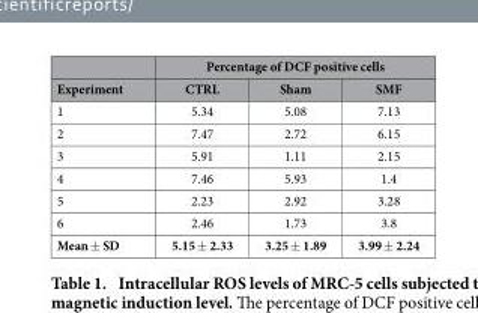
<table><thead><tr><td rowspan="2">Experiment</td><td colspan="3">Percentage of DCF positive cells</td></tr><tr><td>CTRL</td><td>Sham</td><td>SMF</td></tr></thead><tbody><tr><td>1</td><td>5.34</td><td>5.08</td><td>7.13</td></tr><tr><td>2</td><td>7.47</td><td>2.72</td><td>6.15</td></tr><tr><td>3</td><td>5.91</td><td>1.11</td><td>2.15</td></tr><tr><td>4</td><td>7.46</td><td>5.93</td><td>1.4</td></tr><tr><td>5</td><td>2.23</td><td>2.92</td><td>3.28</td></tr><tr><td>6</td><td>2.46</td><td>1.73</td><td>3.8</td></tr><tr><td>Mean ± SD</td><td>5.15 ± 2.33</td><td>3.25 ± 1.89</td><td>3.99 ± 2.24</td></tr></tbody></table>